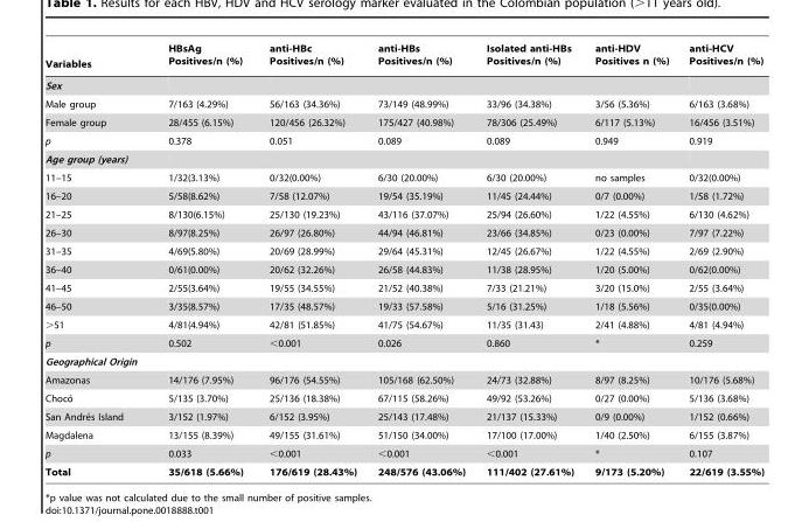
<table><thead><tr><td>Variables</td><td>HBsAg Positives/n (%)</td><td>anti-HBc Positives/n (%)</td><td>anti-HBs Positives/n (%)</td><td>Isolated anti-HBs Positives/n (%)</td><td>anti-HDV Positives n (%)</td><td>anti-HCV Positives/n (%)</td></tr></thead><tbody><tr><td colspan="7">Sex</td></tr><tr><td>Male group</td><td>7/163 (4.29%)</td><td>56/163 (34.36%)</td><td>73/149 (48.99%)</td><td>33/96 (34.38%)</td><td>3/56 (5.36%)</td><td>6/163 (3.68%)</td></tr><tr><td>Female group</td><td>28/455 (6.15%)</td><td>120/456 (26.32%)</td><td>175/427 (40.98%)</td><td>78/306 (25.49%)</td><td>6/117 (5.13%)</td><td>16/456 (3.51%)</td></tr><tr><td>p</td><td>0.378</td><td>0.051</td><td>0.089</td><td>0.089</td><td>0.949</td><td>0.919</td></tr><tr><td colspan="7">Age group (years)</td></tr><tr><td>11–15</td><td>1/32(3.13%)</td><td>0/32(0.00%)</td><td>6/30 (20.00%)</td><td>6/30 (20.00%)</td><td>no samples</td><td>0/32(0.00%)</td></tr><tr><td>16–20</td><td>5/58(8.62%)</td><td>7/58 (12.07%)</td><td>19/54 (35.19%)</td><td>11/45 (24.44%)</td><td>0/7 (0.00%)</td><td>1/58 (1.72%)</td></tr><tr><td>21–25</td><td>8/130(6.15%)</td><td>25/130 (19.23%)</td><td>43/116 (37.07%)</td><td>25/94 (26.60%)</td><td>1/22 (4.55%)</td><td>6/130 (4.62%)</td></tr><tr><td>26–30</td><td>8/97(8.25%)</td><td>26/97 (26.80%)</td><td>44/94 (46.81%)</td><td>23/66 (34.85%)</td><td>0/23 (0.00%)</td><td>7/97 (7.22%)</td></tr><tr><td>31–35</td><td>4/69(5.80%)</td><td>20/69 (28.99%)</td><td>29/64 (45.31%)</td><td>12/45 (26.67%)</td><td>1/22 (4.55%)</td><td>2/69 (2.90%)</td></tr><tr><td>36–40</td><td>0/61(0.00%)</td><td>20/62 (32.26%)</td><td>26/58 (44.83%)</td><td>11/38 (28.95%)</td><td>1/20 (5.00%)</td><td>0/62(0.00%)</td></tr><tr><td>41–45</td><td>2/55(3.64%)</td><td>19/55 (34.55%)</td><td>21/52 (40.38%)</td><td>7/33 (21.21%)</td><td>3/20 (15.0%)</td><td>2/55 (3.64%)</td></tr><tr><td>46–50</td><td>3/35(8.57%)</td><td>17/35 (48.57%)</td><td>19/33 (57.58%)</td><td>5/16 (31.25%)</td><td>1/18 (5.56%)</td><td>0/35(0.00%)</td></tr><tr><td>&gt;51</td><td>4/81(4.94%)</td><td>42/81 (51.85%)</td><td>41/75 (54.67%)</td><td>11/35 (31.43)</td><td>2/41 (4.88%)</td><td>4/81 (4.94%)</td></tr><tr><td>p</td><td>0.502</td><td>&lt;0.001</td><td>0.026</td><td>0.860</td><td>*</td><td>0.259</td></tr><tr><td colspan="7">Geographical Origin</td></tr><tr><td>Amazonas</td><td>14/176 (7.95%)</td><td>96/176 (54.55%)</td><td>105/168 (62.50%)</td><td>24/73 (32.88%)</td><td>8/97 (8.25%)</td><td>10/176 (5.68%)</td></tr><tr><td>Choco´</td><td>5/135 (3.70%)</td><td>25/136 (18.38%)</td><td>67/115 (58.26%)</td><td>49/92 (53.26%)</td><td>0/27 (0.00%)</td><td>5/136 (3.68%)</td></tr><tr><td>San Andre´s Island</td><td>3/152 (1.97%)</td><td>6/152 (3.95%)</td><td>25/143 (17.48%)</td><td>21/137 (15.33%)</td><td>0/9 (0.00%)</td><td>1/152 (0.66%)</td></tr><tr><td>Magdalena</td><td>13/155 (8.39%)</td><td>49/155 (31.61%)</td><td>51/150 (34.00%)</td><td>17/100 (17.00%)</td><td>1/40 (2.50%)</td><td>6/155 (3.87%)</td></tr><tr><td>p</td><td>0.033</td><td>&lt;0.001</td><td>&lt;0.001</td><td>&lt;0.001</td><td>*</td><td>0.107</td></tr><tr><td>Total</td><td>35/618 (5.66%)</td><td>176/619 (28.43%)</td><td>248/576 (43.06%)</td><td>111/402 (27.61%)</td><td>9/173 (5.20%)</td><td>22/619 (3.55%)</td></tr></tbody></table>